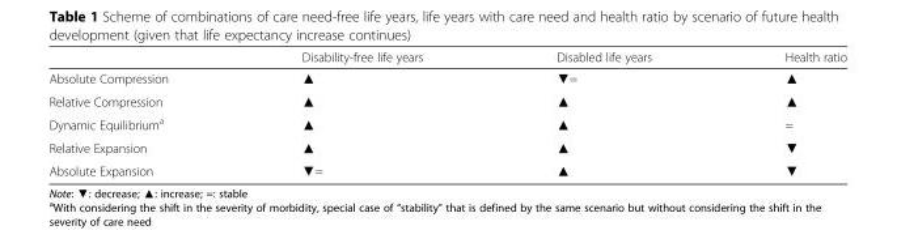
<table><thead><tr><td></td><td>Disability-free life years</td><td>Disabled life years</td><td>Health ratio</td></tr></thead><tbody><tr><td>Absolute Compression</td><td>▲</td><td>▼=</td><td>▲</td></tr><tr><td>Relative Compression</td><td>▲</td><td>▲</td><td>▲</td></tr><tr><td>Dynamic Equilibrium<sup>a</sup></td><td>▲</td><td>▲</td><td>=</td></tr><tr><td>Relative Expansion</td><td>▲</td><td>▲</td><td>▼</td></tr><tr><td>Absolute Expansion</td><td>▼=</td><td>▲</td><td>▼</td></tr></tbody></table>